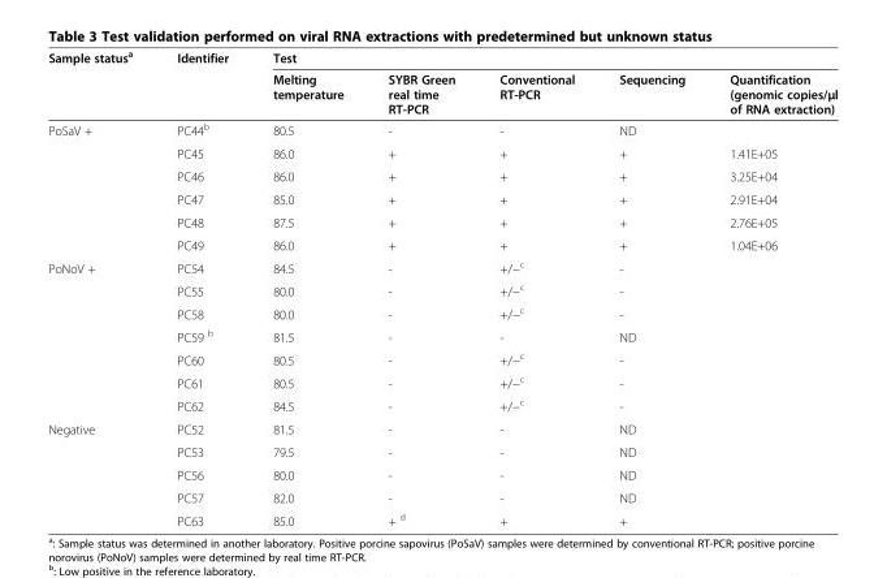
<table><thead><tr><td rowspan="2">Sample status<sup>a</sup></td><td rowspan="2">Identifier</td><td colspan="5">Test</td></tr><tr><td>Melting temperature</td><td>SYBR Green real time RT-PCR</td><td>Conventional RT-PCR</td><td>Sequencing</td><td>Quantification (genomic copies/μl of RNA extraction)</td></tr></thead><tbody><tr><td rowspan="6">PoSaV +</td><td>PC44<sup>b</sup></td><td>80.5</td><td>-</td><td>-</td><td>ND</td><td></td></tr><tr><td>PC45</td><td>86.0</td><td>+</td><td>+</td><td>+</td><td>1.41E+05</td></tr><tr><td>PC46</td><td>86.0</td><td>+</td><td>+</td><td>+</td><td>3.25E+04</td></tr><tr><td>PC47</td><td>85.0</td><td>+</td><td>+</td><td>+</td><td>2.91E+04</td></tr><tr><td>PC48</td><td>87.5</td><td>+</td><td>+</td><td>+</td><td>2.76E+05</td></tr><tr><td>PC49</td><td>86.0</td><td>+</td><td>+</td><td>+</td><td>1.04E+06</td></tr><tr><td rowspan="7">PoNoV +</td><td>PC54</td><td>84.5</td><td>-</td><td>+/−<sup>c</sup></td><td>-</td><td></td></tr><tr><td>PC55</td><td>80.0</td><td>-</td><td>+/−<sup>c</sup></td><td>-</td><td></td></tr><tr><td>PC58</td><td>80.0</td><td>-</td><td>+/−<sup>c</sup></td><td>-</td><td></td></tr><tr><td>PC59 <sup>b</sup></td><td>81.5</td><td>-</td><td>-</td><td>ND</td><td></td></tr><tr><td>PC60</td><td>80.5</td><td>-</td><td>+/−<sup>c</sup></td><td>-</td><td></td></tr><tr><td>PC61</td><td>80.5</td><td>-</td><td>+/−<sup>c</sup></td><td>-</td><td></td></tr><tr><td>PC62</td><td>84.5</td><td>-</td><td>+/−<sup>c</sup></td><td>-</td><td></td></tr><tr><td rowspan="5">Negative</td><td>PC52</td><td>81.5</td><td>-</td><td>-</td><td>ND</td><td></td></tr><tr><td>PC53</td><td>79.5</td><td>-</td><td>-</td><td>ND</td><td></td></tr><tr><td>PC56</td><td>80.0</td><td>-</td><td>-</td><td>ND</td><td></td></tr><tr><td>PC57</td><td>82.0</td><td>-</td><td>-</td><td>ND</td><td></td></tr><tr><td>PC63</td><td>85.0</td><td>+ <sup>d</sup></td><td>+</td><td>+</td><td></td></tr></tbody></table>